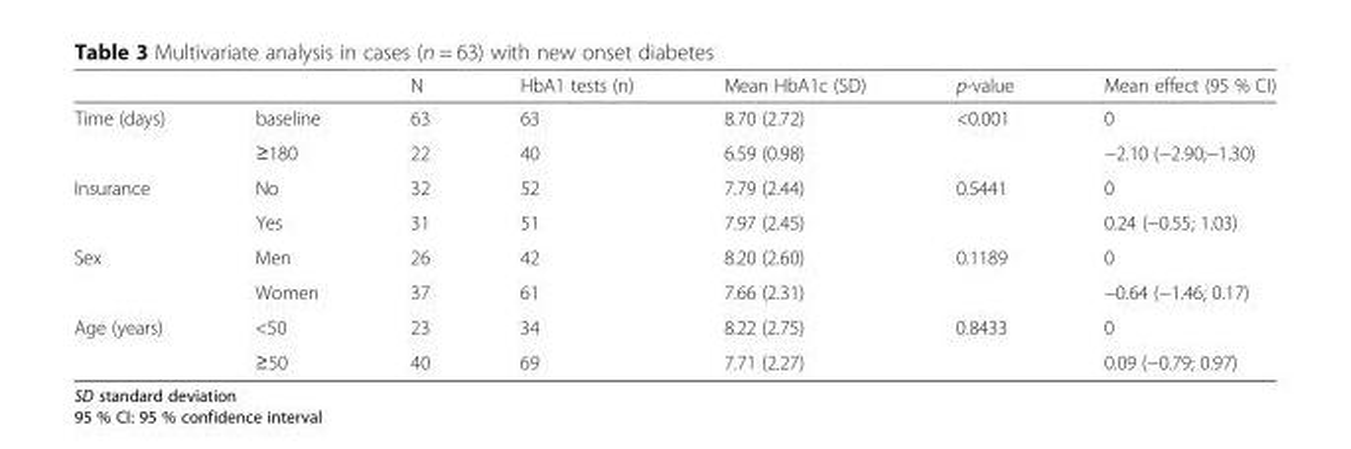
<table><thead><tr><td></td><td></td><td>N</td><td>HbA1 tests (n)</td><td>Mean HbA1c (SD)</td><td>p-value</td><td>Mean effect (95 % CI)</td></tr></thead><tbody><tr><td rowspan="2">Time (days)</td><td>baseline</td><td>63</td><td>63</td><td>8.70 (2.72)</td><td rowspan="2">&lt;0.001</td><td>0</td></tr><tr><td>≥180</td><td>22</td><td>40</td><td>6.59 (0.98)</td><td>−2.10 (−2.90;−1.30)</td></tr><tr><td rowspan="2">Insurance</td><td>No</td><td>32</td><td>52</td><td>7.79 (2.44)</td><td rowspan="2">0.5441</td><td>0</td></tr><tr><td>Yes</td><td>31</td><td>51</td><td>7.97 (2.45)</td><td>0.24 (−0.55; 1.03)</td></tr><tr><td rowspan="2">Sex</td><td>Men</td><td>26</td><td>42</td><td>8.20 (2.60)</td><td rowspan="2">0.1189</td><td>0</td></tr><tr><td>Women</td><td>37</td><td>61</td><td>7.66 (2.31)</td><td>−0.64 (−1.46; 0.17)</td></tr><tr><td rowspan="2">Age (years)</td><td>&lt;50</td><td>23</td><td>34</td><td>8.22 (2.75)</td><td rowspan="2">0.8433</td><td>0</td></tr><tr><td>≥50</td><td>40</td><td>69</td><td>7.71 (2.27)</td><td>0.09 (−0.79; 0.97)</td></tr></tbody></table>